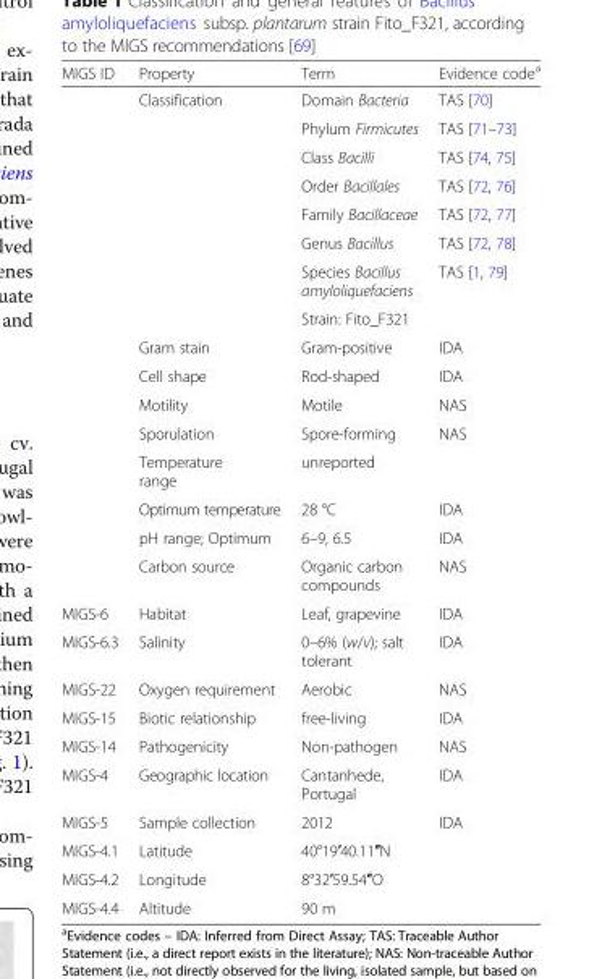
<table><thead><tr><td>MIGS ID</td><td>Property</td><td>Term</td><td>Evidence code<sup>a</sup></td></tr></thead><tbody><tr><td></td><td>Classification</td><td>Domain Bacteria</td><td>TAS [70]</td></tr><tr><td></td><td></td><td>Phylum Firmicutes</td><td>TAS [71–73]</td></tr><tr><td></td><td></td><td>Class Bacilli</td><td>TAS [74, 75]</td></tr><tr><td></td><td></td><td>Order Bacillales</td><td>TAS [72, 76]</td></tr><tr><td></td><td></td><td>Family Bacillaceae</td><td>TAS [72, 77]</td></tr><tr><td></td><td></td><td>Genus Bacillus</td><td>TAS [72, 78]</td></tr><tr><td></td><td></td><td>Species Bacillus amyloliquefaciens</td><td>TAS [1, 79]</td></tr><tr><td></td><td></td><td>Strain: Fito_F321</td><td></td></tr><tr><td></td><td>Gram stain</td><td>Gram-positive</td><td>IDA</td></tr><tr><td></td><td>Cell shape</td><td>Rod-shaped</td><td>IDA</td></tr><tr><td></td><td>Motility</td><td>Motile</td><td>NAS</td></tr><tr><td></td><td>Sporulation</td><td>Spore-forming</td><td>NAS</td></tr><tr><td></td><td>Temperature range</td><td>unreported</td><td></td></tr><tr><td></td><td>Optimum temperature</td><td>28 °C</td><td>IDA</td></tr><tr><td></td><td>pH range; Optimum</td><td>6–9, 6.5</td><td>IDA</td></tr><tr><td></td><td>Carbon source</td><td>Organic carbon compounds</td><td>NAS</td></tr><tr><td>MIGS-6</td><td>Habitat</td><td>Leaf, grapevine</td><td>IDA</td></tr><tr><td>MIGS-6.3</td><td>Salinity</td><td>0–6% (w/v); salt tolerant</td><td>IDA</td></tr><tr><td>MIGS-22</td><td>Oxygen requirement</td><td>Aerobic</td><td>NAS</td></tr><tr><td>MIGS-15</td><td>Biotic relationship</td><td>free-living</td><td>IDA</td></tr><tr><td>MIGS-14</td><td>Pathogenicity</td><td>Non-pathogen</td><td>NAS</td></tr><tr><td>MIGS-4</td><td>Geographic location</td><td>Cantanhede, Portugal</td><td>IDA</td></tr><tr><td>MIGS-5</td><td>Sample collection</td><td>2012</td><td>IDA</td></tr><tr><td>MIGS-4.1</td><td>Latitude</td><td>40°19′40.11″N</td><td></td></tr><tr><td>MIGS-4.2</td><td>Longitude</td><td>8°32′59.54″O</td><td></td></tr><tr><td>MIGS-4.4</td><td>Altitude</td><td>90 m</td><td></td></tr></tbody></table>